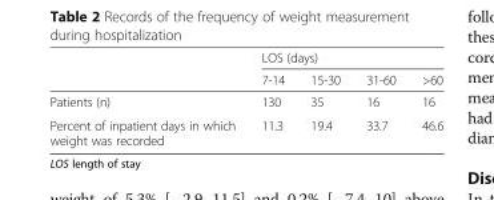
<table><thead><tr><td rowspan="2"></td><td colspan="4">LOS (days)</td></tr><tr><td>7-14</td><td>15-30</td><td>31-60</td><td>&gt;60</td></tr></thead><tbody><tr><td>Patients (n)</td><td>130</td><td>35</td><td>16</td><td>16</td></tr><tr><td>Percent of inpatient days in which weight was recorded</td><td>11.3</td><td>19.4</td><td>33.7</td><td>46.6</td></tr></tbody></table>